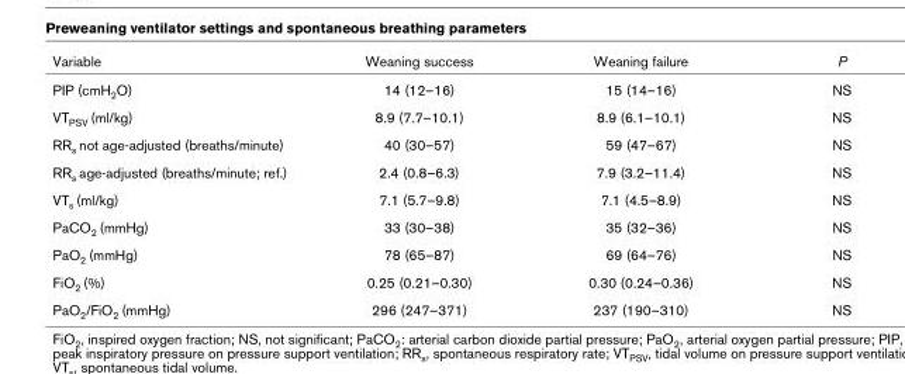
<table><thead><tr><td>Variable</td><td>Weaning success</td><td>Weaning failure</td><td>P</td></tr></thead><tbody><tr><td>PIP (cmH2O)</td><td>14 (12–16)</td><td>15 (14–16)</td><td>NS</td></tr><tr><td>VTPSV (ml/kg)</td><td>8.9 (7.7–10.1)</td><td>8.9 (6.1–10.1)</td><td>NS</td></tr><tr><td>RRs not age-adjusted (breaths/minute)</td><td>40 (30–57)</td><td>59 (47–67)</td><td>NS</td></tr><tr><td>RRs age-adjusted (breaths/minute; ref.)</td><td>2.4 (0.8–6.3)</td><td>7.9 (3.2–11.4)</td><td>NS</td></tr><tr><td>VTs (ml/kg)</td><td>7.1 (5.7–9.8)</td><td>7.1 (4.5–8.9)</td><td>NS</td></tr><tr><td>PaCO2 (mmHg)</td><td>33 (30–38)</td><td>35 (32–36)</td><td>NS</td></tr><tr><td>PaO2 (mmHg)</td><td>78 (65–87)</td><td>69 (64–76)</td><td>NS</td></tr><tr><td>FiO2 (%)</td><td>0.25 (0.21–0.30)</td><td>0.30 (0.24–0.36)</td><td>NS</td></tr><tr><td>PaO2/FiO2 (mmHg)</td><td>296 (247–371)</td><td>237 (190–310)</td><td>NS</td></tr></tbody></table>